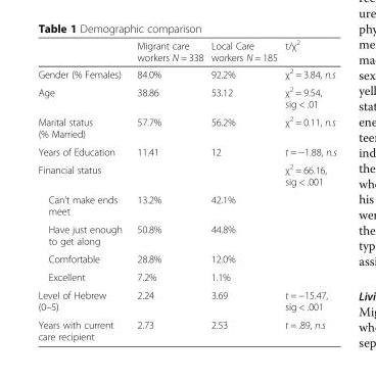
<table><thead><tr><td></td><td>Migrant care workers N = 338</td><td>Local Care workers N = 185</td><td>t/χ<sup>2</sup></td></tr></thead><tbody><tr><td>Gender (% Females)</td><td>84.0%</td><td>92.2%</td><td>χ<sup>2</sup> = 3.84, n.s</td></tr><tr><td>Age</td><td>38.86</td><td>53.12</td><td>χ<sup>2</sup> = 9.54, sig &lt; .01</td></tr><tr><td>Marital status (% Married)</td><td>57.7%</td><td>56.2%</td><td>χ<sup>2</sup> = 0.11, n.s</td></tr><tr><td>Years of Education</td><td>11.41</td><td>12</td><td>t = −1.88, n.s</td></tr><tr><td>Financial status</td><td></td><td></td><td>χ<sup>2</sup> = 66.16, sig &lt; .001</td></tr><tr><td>Can’t make ends meet</td><td>13.2%</td><td>42.1%</td><td></td></tr><tr><td>Have just enough to get along</td><td>50.8%</td><td>44.8%</td><td></td></tr><tr><td>Comfortable</td><td>28.8%</td><td>12.0%</td><td></td></tr><tr><td>Excellent</td><td>7.2%</td><td>1.1%</td><td></td></tr><tr><td>Level of Hebrew (0–5)</td><td>2.24</td><td>3.69</td><td>t = −15.47, sig &lt; .001</td></tr><tr><td>Years with current care recipient</td><td>2.73</td><td>2.53</td><td>t = .89, n.s</td></tr></tbody></table>